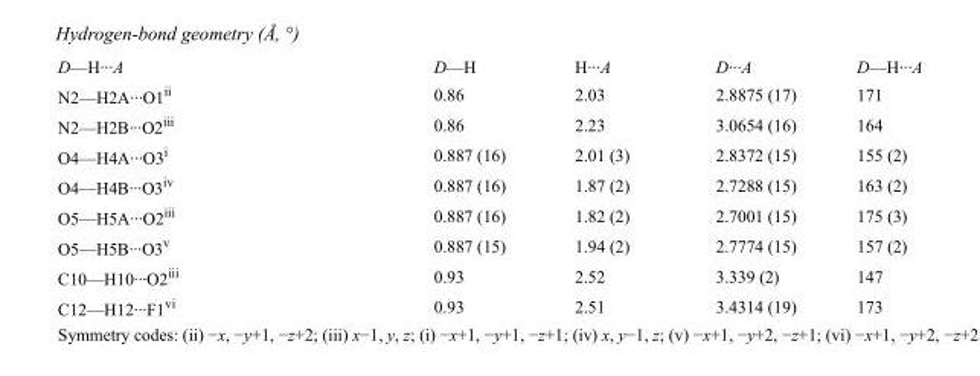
<table><tbody><tr><td>D—H···A</td><td>D—H</td><td>H···A</td><td>D···A</td><td>D—H···A</td></tr><tr><td>N2—H2A···O1<sup>ii</sup></td><td>0.86</td><td>2.03</td><td>2.8875 (17)</td><td>171</td></tr><tr><td>N2—H2B···O2<sup>iii</sup></td><td>0.86</td><td>2.23</td><td>3.0654 (16)</td><td>164</td></tr><tr><td>O4—H4A···O3<sup>i</sup></td><td>0.887 (16)</td><td>2.01 (3)</td><td>2.8372 (15)</td><td>155 (2)</td></tr><tr><td>O4—H4B···O3<sup>iv</sup></td><td>0.887 (16)</td><td>1.87 (2)</td><td>2.7288 (15)</td><td>163 (2)</td></tr><tr><td>O5—H5A···O2<sup>iii</sup></td><td>0.887 (16)</td><td>1.82 (2)</td><td>2.7001 (15)</td><td>175 (3)</td></tr><tr><td>O5—H5B···O3<sup>v</sup></td><td>0.887 (15)</td><td>1.94 (2)</td><td>2.7774 (15)</td><td>157 (2)</td></tr><tr><td>C10—H10···O2<sup>iii</sup></td><td>0.93</td><td>2.52</td><td>3.339 (2)</td><td>147</td></tr><tr><td>C12—H12···F1<sup>vi</sup></td><td>0.93</td><td>2.51</td><td>3.4314 (19)</td><td>173</td></tr></tbody></table>